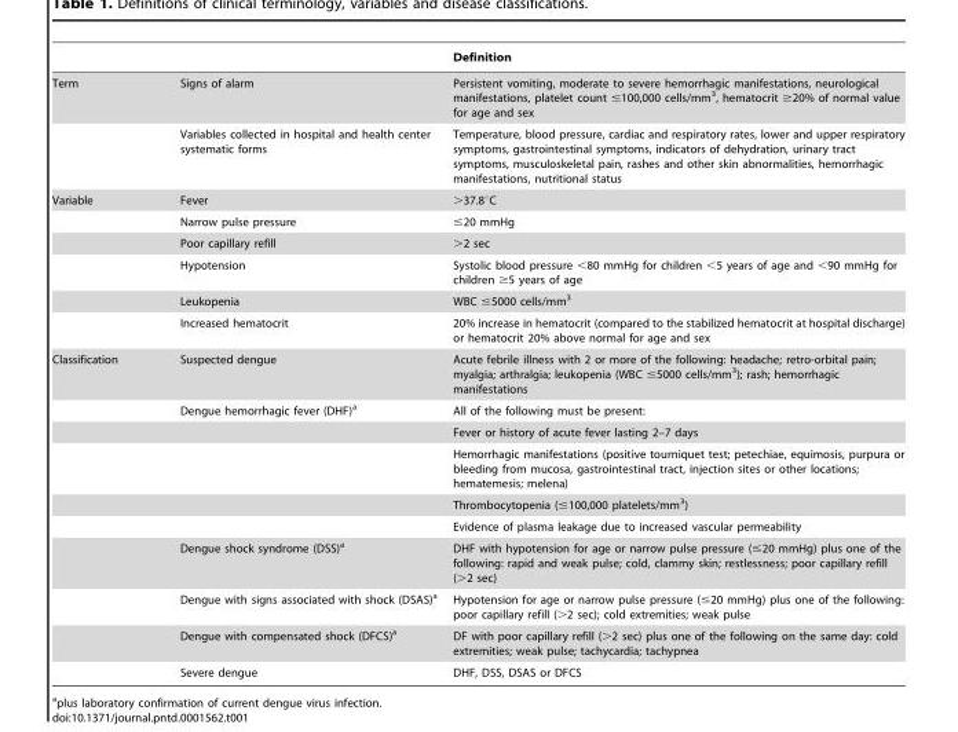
<table><thead><tr><td></td><td></td><td>Definition</td></tr></thead><tbody><tr><td rowspan="2">Term</td><td>Signs of alarm</td><td>Persistent vomiting, moderate to severe hemorrhagic manifestations, neurological manifestations, platelet count ≤100,000 cells/mm<sup>3</sup>, hematocrit ≥20% of normal value for age and sex</td></tr><tr><td>Variables collected in hospital and health center systematic forms</td><td>Temperature, blood pressure, cardiac and respiratory rates, lower and upper respiratory symptoms, gastrointestinal symptoms, indicators of dehydration, urinary tract symptoms, musculoskeletal pain, rashes and other skin abnormalities, hemorrhagic manifestations, nutritional status</td></tr><tr><td rowspan="6">Variable</td><td>Fever</td><td>&gt;37.8°C</td></tr><tr><td>Narrow pulse pressure</td><td>≤20 mmHg</td></tr><tr><td>Poor capillary refill</td><td>&gt;2 sec</td></tr><tr><td>Hypotension</td><td>Systolic blood pressure &lt;80 mmHg for children &lt;5 years of age and &lt;90 mmHg for children ≥5 years of age</td></tr><tr><td>Leukopenia</td><td>WBC ≤5000 cells/mm<sup>3</sup></td></tr><tr><td>Increased hematocrit</td><td>20% increase in hematocrit (compared to the stabilized hematocrit at hospital discharge) or hematocrit 20% above normal for age and sex</td></tr><tr><td rowspan="10">Classification</td><td>Suspected dengue</td><td>Acute febrile illness with 2 or more of the following: headache; retro-orbital pain; myalgia; arthralgia; leukopenia (WBC ≤5000 cells/mm<sup>3</sup>); rash; hemorrhagic manifestations</td></tr><tr><td>Dengue hemorrhagic fever (DHF)<sup>a</sup></td><td>All of the following must be present:</td></tr><tr><td></td><td>Fever or history of acute fever lasting 2–7 days</td></tr><tr><td></td><td>Hemorrhagic manifestations (positive tourniquet test; petechiae, equimosis, purpura or bleeding from mucosa, gastrointestinal tract, injection sites or other locations; hematemesis; melena)</td></tr><tr><td></td><td>Thrombocytopenia (≤100,000 platelets/mm<sup>3</sup>)</td></tr><tr><td></td><td>Evidence of plasma leakage due to increased vascular permeability</td></tr><tr><td>Dengue shock syndrome (DSS)<sup>a</sup></td><td>DHF with hypotension for age or narrow pulse pressure (≤20 mmHg) plus one of the following: rapid and weak pulse; cold, clammy skin; restlessness; poor capillary refill (&gt;2 sec)</td></tr><tr><td>Dengue with signs associated with shock (DSAS)<sup>a</sup></td><td>Hypotension for age or narrow pulse pressure (≤20 mmHg) plus one of the following: poor capillary refill (&gt;2 sec); cold extremities; weak pulse</td></tr><tr><td>Dengue with compensated shock (DFCS)<sup>a</sup></td><td>DF with poor capillary refill (&gt;2 sec) plus one of the following on the same day: cold extremities; weak pulse; tachycardia; tachypnea</td></tr><tr><td>Severe dengue</td><td>DHF, DSS, DSAS or DFCS</td></tr></tbody></table>